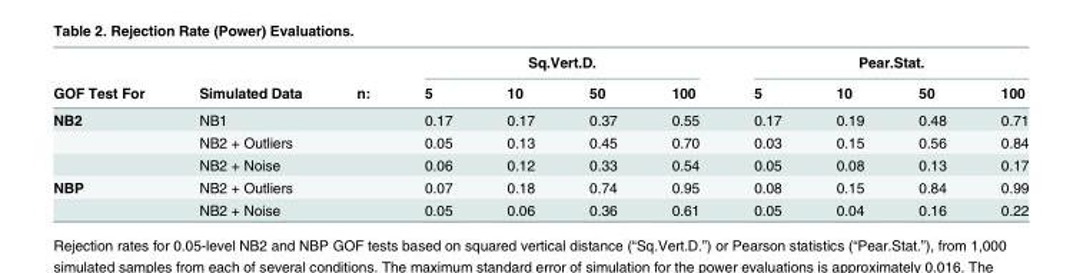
<table><thead><tr><td rowspan="2">GOF Test For</td><td rowspan="2">Simulated Data</td><td rowspan="2">n:</td><td colspan="4">Sq.Vert.D.</td><td colspan="4">Pear.Stat.</td></tr><tr><td>5</td><td>10</td><td>50</td><td>100</td><td>5</td><td>10</td><td>50</td><td>100</td></tr></thead><tbody><tr><td rowspan="3">NB2</td><td>NB1</td><td></td><td>0.17</td><td>0.17</td><td>0.37</td><td>0.55</td><td>0.17</td><td>0.19</td><td>0.48</td><td>0.71</td></tr><tr><td>NB2 + Outliers</td><td></td><td>0.05</td><td>0.13</td><td>0.45</td><td>0.70</td><td>0.03</td><td>0.15</td><td>0.56</td><td>0.84</td></tr><tr><td>NB2 + Noise</td><td></td><td>0.06</td><td>0.12</td><td>0.33</td><td>0.54</td><td>0.05</td><td>0.08</td><td>0.13</td><td>0.17</td></tr><tr><td rowspan="2">NBP</td><td>NB2 + Outliers</td><td></td><td>0.07</td><td>0.18</td><td>0.74</td><td>0.95</td><td>0.08</td><td>0.15</td><td>0.84</td><td>0.99</td></tr><tr><td>NB2 + Noise</td><td></td><td>0.05</td><td>0.06</td><td>0.36</td><td>0.61</td><td>0.05</td><td>0.04</td><td>0.16</td><td>0.22</td></tr></tbody></table>